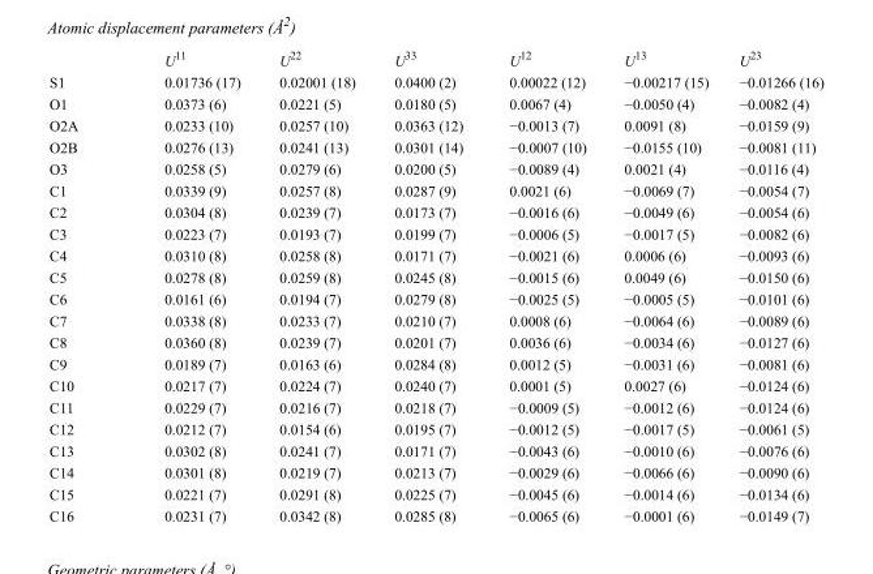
<table><thead><tr><td></td><td>U<sup>11</sup></td><td>U<sup>22</sup></td><td>U<sup>33</sup></td><td>U<sup>12</sup></td><td>U<sup>13</sup></td><td>U<sup>23</sup></td></tr></thead><tbody><tr><td>S1</td><td>0.01736 (17)</td><td>0.02001 (18)</td><td>0.0400 (2)</td><td>0.00022 (12)</td><td>−0.00217 (15)</td><td>−0.01266 (16)</td></tr><tr><td>O1</td><td>0.0373 (6)</td><td>0.0221 (5)</td><td>0.0180 (5)</td><td>0.0067 (4)</td><td>−0.0050 (4)</td><td>−0.0082 (4)</td></tr><tr><td>O2A</td><td>0.0233 (10)</td><td>0.0257 (10)</td><td>0.0363 (12)</td><td>−0.0013 (7)</td><td>0.0091 (8)</td><td>−0.0159 (9)</td></tr><tr><td>O2B</td><td>0.0276 (13)</td><td>0.0241 (13)</td><td>0.0301 (14)</td><td>−0.0007 (10)</td><td>−0.0155 (10)</td><td>−0.0081 (11)</td></tr><tr><td>O3</td><td>0.0258 (5)</td><td>0.0279 (6)</td><td>0.0200 (5)</td><td>−0.0089 (4)</td><td>0.0021 (4)</td><td>−0.0116 (4)</td></tr><tr><td>C1</td><td>0.0339 (9)</td><td>0.0257 (8)</td><td>0.0287 (9)</td><td>0.0021 (6)</td><td>−0.0069 (7)</td><td>−0.0054 (7)</td></tr><tr><td>C2</td><td>0.0304 (8)</td><td>0.0239 (7)</td><td>0.0173 (7)</td><td>−0.0016 (6)</td><td>−0.0049 (6)</td><td>−0.0054 (6)</td></tr><tr><td>C3</td><td>0.0223 (7)</td><td>0.0193 (7)</td><td>0.0199 (7)</td><td>−0.0006 (5)</td><td>−0.0017 (5)</td><td>−0.0082 (6)</td></tr><tr><td>C4</td><td>0.0310 (8)</td><td>0.0258 (8)</td><td>0.0171 (7)</td><td>−0.0021 (6)</td><td>0.0006 (6)</td><td>−0.0093 (6)</td></tr><tr><td>C5</td><td>0.0278 (8)</td><td>0.0259 (8)</td><td>0.0245 (8)</td><td>−0.0015 (6)</td><td>0.0049 (6)</td><td>−0.0150 (6)</td></tr><tr><td>C6</td><td>0.0161 (6)</td><td>0.0194 (7)</td><td>0.0279 (8)</td><td>−0.0025 (5)</td><td>−0.0005 (5)</td><td>−0.0101 (6)</td></tr><tr><td>C7</td><td>0.0338 (8)</td><td>0.0233 (7)</td><td>0.0210 (7)</td><td>0.0008 (6)</td><td>−0.0064 (6)</td><td>−0.0089 (6)</td></tr><tr><td>C8</td><td>0.0360 (8)</td><td>0.0239 (7)</td><td>0.0201 (7)</td><td>0.0036 (6)</td><td>−0.0034 (6)</td><td>−0.0127 (6)</td></tr><tr><td>C9</td><td>0.0189 (7)</td><td>0.0163 (6)</td><td>0.0284 (8)</td><td>0.0012 (5)</td><td>−0.0031 (6)</td><td>−0.0081 (6)</td></tr><tr><td>C10</td><td>0.0217 (7)</td><td>0.0224 (7)</td><td>0.0240 (7)</td><td>0.0001 (5)</td><td>0.0027 (6)</td><td>−0.0124 (6)</td></tr><tr><td>C11</td><td>0.0229 (7)</td><td>0.0216 (7)</td><td>0.0218 (7)</td><td>−0.0009 (5)</td><td>−0.0012 (6)</td><td>−0.0124 (6)</td></tr><tr><td>C12</td><td>0.0212 (7)</td><td>0.0154 (6)</td><td>0.0195 (7)</td><td>−0.0012 (5)</td><td>−0.0017 (5)</td><td>−0.0061 (5)</td></tr><tr><td>C13</td><td>0.0302 (8)</td><td>0.0241 (7)</td><td>0.0171 (7)</td><td>−0.0043 (6)</td><td>−0.0010 (6)</td><td>−0.0076 (6)</td></tr><tr><td>C14</td><td>0.0301 (8)</td><td>0.0219 (7)</td><td>0.0213 (7)</td><td>−0.0029 (6)</td><td>−0.0066 (6)</td><td>−0.0090 (6)</td></tr><tr><td>C15</td><td>0.0221 (7)</td><td>0.0291 (8)</td><td>0.0225 (7)</td><td>−0.0045 (6)</td><td>−0.0014 (6)</td><td>−0.0134 (6)</td></tr><tr><td>C16</td><td>0.0231 (7)</td><td>0.0342 (8)</td><td>0.0285 (8)</td><td>−0.0065 (6)</td><td>−0.0001 (6)</td><td>−0.0149 (7)</td></tr></tbody></table>